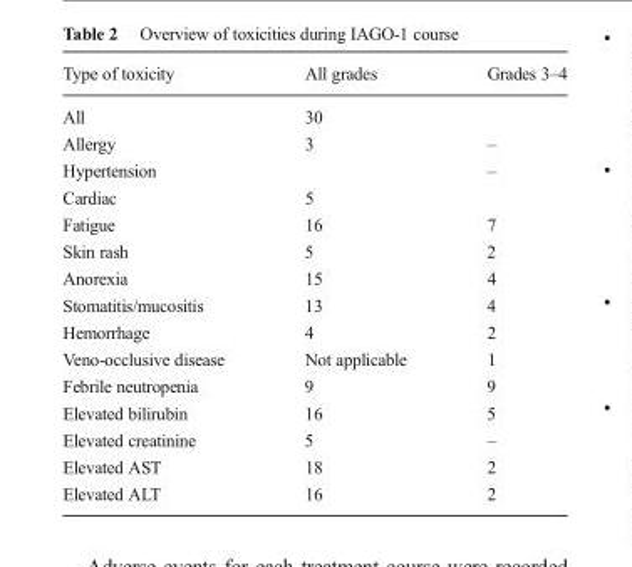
<table><thead><tr><td>Type of toxicity</td><td>All grades</td><td>Grades 3–4</td></tr></thead><tbody><tr><td>All</td><td>30</td><td></td></tr><tr><td>Allergy</td><td>3</td><td>–</td></tr><tr><td>Hypertension</td><td></td><td>–</td></tr><tr><td>Cardiac</td><td>5</td><td></td></tr><tr><td>Fatigue</td><td>16</td><td>7</td></tr><tr><td>Skin rash</td><td>5</td><td>2</td></tr><tr><td>Anorexia</td><td>15</td><td>4</td></tr><tr><td>Stomatitis/mucositis</td><td>13</td><td>4</td></tr><tr><td>Hemorrhage</td><td>4</td><td>2</td></tr><tr><td>Veno-occlusive disease</td><td>Not applicable</td><td>1</td></tr><tr><td>Febrile neutropenia</td><td>9</td><td>9</td></tr><tr><td>Elevated bilirubin</td><td>16</td><td>5</td></tr><tr><td>Elevated creatinine</td><td>5</td><td>–</td></tr><tr><td>Elevated AST</td><td>18</td><td>2</td></tr><tr><td>Elevated ALT</td><td>16</td><td>2</td></tr></tbody></table>